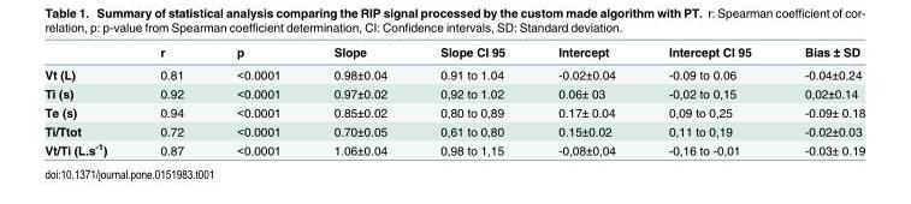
<table><thead><tr><td></td><td>r</td><td>p</td><td>Slope</td><td>Slope CI 95</td><td>Intercept</td><td>Intercept CI 95</td><td>Bias ± SD</td></tr></thead><tbody><tr><td>Vt (L)</td><td>0.81</td><td>&lt;0.0001</td><td>0.98±0.04</td><td>0.91 to 1.04</td><td>-0.02±0.04</td><td>-0.09 to 0.06</td><td>-0.04±0.24</td></tr><tr><td>Ti (s)</td><td>0.92</td><td>&lt;0.0001</td><td>0.97±0.02</td><td>0,92 to 1.02</td><td>0.06± 03</td><td>-0,02 to 0,15</td><td>0,02±0.14</td></tr><tr><td>Te (s)</td><td>0.94</td><td>&lt;0.0001</td><td>0.85±0.02</td><td>0,80 to 0,89</td><td>0.17± 0.04</td><td>0,09 to 0,25</td><td>-0.09± 0.18</td></tr><tr><td>Ti/Ttot</td><td>0.72</td><td>&lt;0.0001</td><td>0.70±0.05</td><td>0,61 to 0,80</td><td>0.15±0.02</td><td>0,11 to 0,19</td><td>-0.02±0.03</td></tr><tr><td>Vt/Ti (L.s<sup>-1</sup>)</td><td>0.87</td><td>&lt;0.0001</td><td>1.06±0.04</td><td>0,98 to 1,15</td><td>-0,08±0,04</td><td>-0,16 to -0,01</td><td>-0.03± 0.19</td></tr></tbody></table>